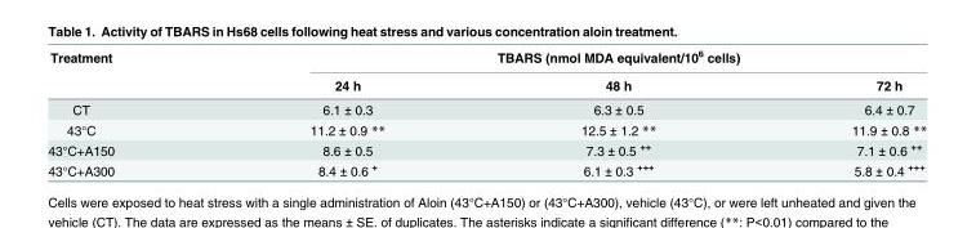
<table><thead><tr><td rowspan="2">Treatment</td><td colspan="3">TBARS (nmol MDA equivalent/10<sup>6</sup> cells)</td></tr><tr><td>24 h</td><td>48 h</td><td>72 h</td></tr></thead><tbody><tr><td>CT</td><td>6.1 ± 0.3</td><td>6.3 ± 0.5</td><td>6.4 ± 0.7</td></tr><tr><td>43°C</td><td>11.2 ± 0.9 **</td><td>12.5 ± 1.2 **</td><td>11.9 ± 0.8 **</td></tr><tr><td>43°C+A150</td><td>8.6 ± 0.5</td><td>7.3 ± 0.5 <sup>++</sup></td><td>7.1 ± 0.6 <sup>++</sup></td></tr><tr><td>43°C+A300</td><td>8.4 ± 0.6 <sup>+</sup></td><td>6.1 ± 0.3 <sup>+++</sup></td><td>5.8 ± 0.4 <sup>+++</sup></td></tr></tbody></table>